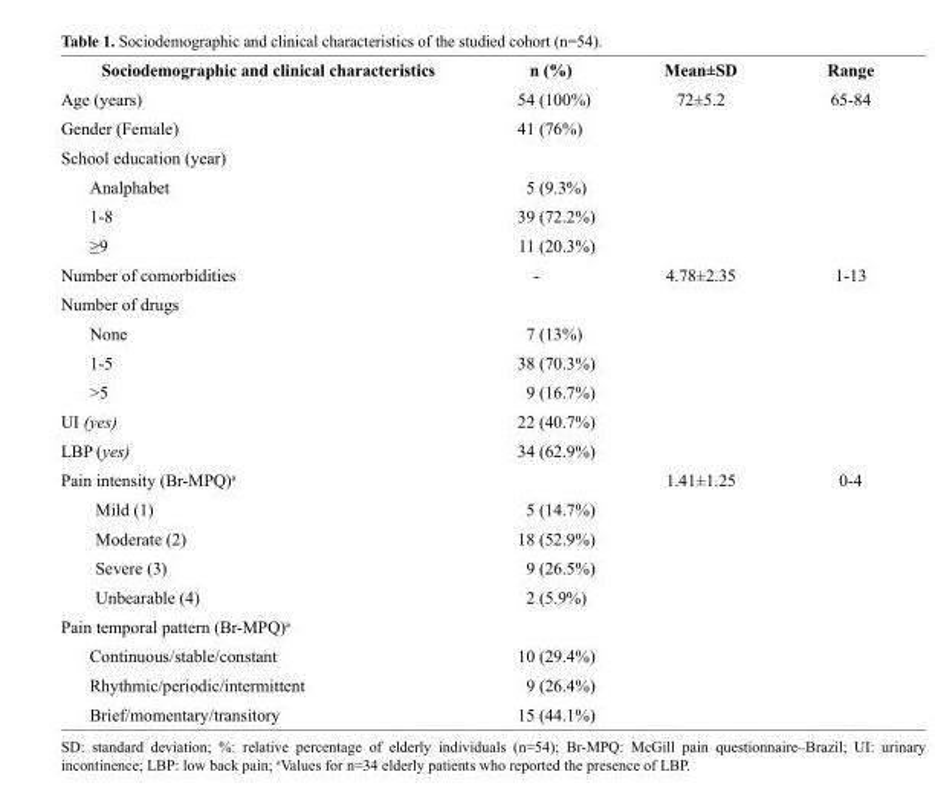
<table><thead><tr><td>Sociodemographic and clinical characteristics</td><td>n (%)</td><td>Mean±SD</td><td>Range</td></tr></thead><tbody><tr><td>Age (years)</td><td>54 (100%)</td><td>72±5.2</td><td>65-84</td></tr><tr><td>Gender (Female)</td><td>41 (76%)</td><td></td><td></td></tr><tr><td colspan="4">School education (year)</td></tr><tr><td>Analphabet</td><td>5 (9.3%)</td><td></td><td></td></tr><tr><td>1-8</td><td>39 (72.2%)</td><td></td><td></td></tr><tr><td>≥9</td><td>11 (20.3%)</td><td></td><td></td></tr><tr><td>Number of comorbidities</td><td>-</td><td>4.78±2.35</td><td>1-13</td></tr><tr><td colspan="4">Number of drugs</td></tr><tr><td>None</td><td>7 (13%)</td><td></td><td></td></tr><tr><td>1-5</td><td>38 (70.3%)</td><td></td><td></td></tr><tr><td>&gt;5</td><td>9 (16.7%)</td><td></td><td></td></tr><tr><td>UI (yes)</td><td>22 (40.7%)</td><td></td><td></td></tr><tr><td>LBP (yes)</td><td>34 (62.9%)</td><td></td><td></td></tr><tr><td>Pain intensity (Br-MPQ)<sup>a</sup></td><td></td><td>1.41±1.25</td><td>0-4</td></tr><tr><td>Mild (1)</td><td>5 (14.7%)</td><td></td><td></td></tr><tr><td>Moderate (2)</td><td>18 (52.9%)</td><td></td><td></td></tr><tr><td>Severe (3)</td><td>9 (26.5%)</td><td></td><td></td></tr><tr><td>Unbearable (4)</td><td>2 (5.9%)</td><td></td><td></td></tr><tr><td colspan="4">Pain temporal pattern (Br-MPQ)<sup>a</sup></td></tr><tr><td>Continuous/stable/constant</td><td>10 (29.4%)</td><td></td><td></td></tr><tr><td>Rhythmic/periodic/intermittent</td><td>9 (26.4%)</td><td></td><td></td></tr><tr><td>Brief/momentary/transitory</td><td>15 (44.1%)</td><td></td><td></td></tr></tbody></table>